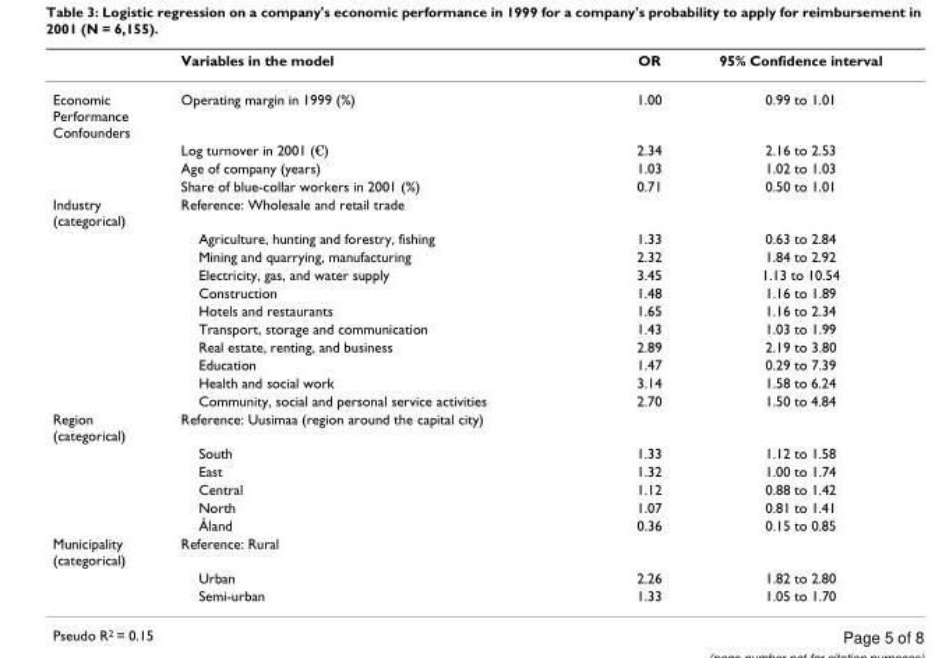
<table><thead><tr><td></td><td>Variables in the model</td><td>OR</td><td>95% Confidence interval</td></tr></thead><tbody><tr><td rowspan="4">Economic Performance Confounders</td><td>Operating margin in 1999 (%)</td><td>1.00</td><td>0.99 to 1.01</td></tr><tr><td>Log turnover in 2001 (€)</td><td>2.34</td><td>2.16 to 2.53</td></tr><tr><td>Age of company (years)</td><td>1.03</td><td>1.02 to 1.03</td></tr><tr><td>Share of blue-collar workers in 2001 (%)</td><td>0.71</td><td>0.50 to 1.01</td></tr><tr><td rowspan="11">Industry (categorical)</td><td colspan="3">Reference: Wholesale and retail trade</td></tr><tr><td>Agriculture, hunting and forestry, fishing</td><td>1.33</td><td>0.63 to 2.84</td></tr><tr><td>Mining and quarrying, manufacturing</td><td>2.32</td><td>1.84 to 2.92</td></tr><tr><td>Electricity, gas, and water supply</td><td>3.45</td><td>1.13 to 10.54</td></tr><tr><td>Construction</td><td>1.48</td><td>1.16 to 1.89</td></tr><tr><td>Hotels and restaurants</td><td>1.65</td><td>1.16 to 2.34</td></tr><tr><td>Transport, storage and communication</td><td>1.43</td><td>1.03 to 1.99</td></tr><tr><td>Real estate, renting, and business</td><td>2.89</td><td>2.19 to 3.80</td></tr><tr><td>Education</td><td>1.47</td><td>0.29 to 7.39</td></tr><tr><td>Health and social work</td><td>3.14</td><td>1.58 to 6.24</td></tr><tr><td>Community, social and personal service activities</td><td>2.70</td><td>1.50 to 4.84</td></tr><tr><td rowspan="6">Region (categorical)</td><td colspan="3">Reference: Uusimaa (region around the capital city)</td></tr><tr><td>South</td><td>1.33</td><td>1.12 to 1.58</td></tr><tr><td>East</td><td>1.32</td><td>1.00 to 1.74</td></tr><tr><td>Central</td><td>1.12</td><td>0.88 to 1.42</td></tr><tr><td>North</td><td>1.07</td><td>0.81 to 1.41</td></tr><tr><td>Åland</td><td>0.36</td><td>0.15 to 0.85</td></tr><tr><td rowspan="3">Municipality (categorical)</td><td colspan="3">Reference: Rural</td></tr><tr><td>Urban</td><td>2.26</td><td>1.82 to 2.80</td></tr><tr><td>Semi-urban</td><td>1.33</td><td>1.05 to 1.70</td></tr></tbody></table>